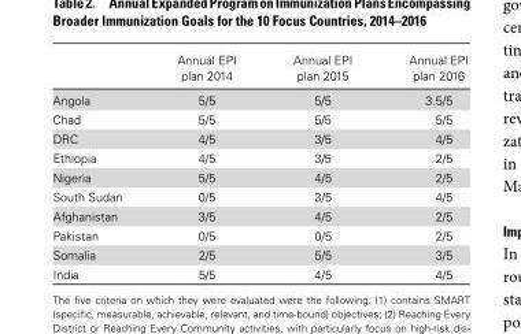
<table><thead><tr><td></td><td>Annual EPI plan 2014</td><td>Annual EPI plan 2015</td><td>Annual EPI plan 2016</td></tr></thead><tbody><tr><td>Angola</td><td>5/5</td><td>5/5</td><td>3.5/5</td></tr><tr><td>Chad</td><td>5/5</td><td>5/5</td><td>5/5</td></tr><tr><td>DRC</td><td>4/5</td><td>3/5</td><td>4/5</td></tr><tr><td>Ethiopia</td><td>4/5</td><td>3/5</td><td>2/5</td></tr><tr><td>Nigeria</td><td>5/5</td><td>4/5</td><td>2/5</td></tr><tr><td>South Sudan</td><td>0/5</td><td>3/5</td><td>4/5</td></tr><tr><td>Afghanistan</td><td>3/5</td><td>4/5</td><td>2/5</td></tr><tr><td>Pakistan</td><td>0/5</td><td>0/5</td><td>2/5</td></tr><tr><td>Somalia</td><td>2/5</td><td>5/5</td><td>3/5</td></tr><tr><td>India</td><td>5/5</td><td>4/5</td><td>4/5</td></tr></tbody></table>